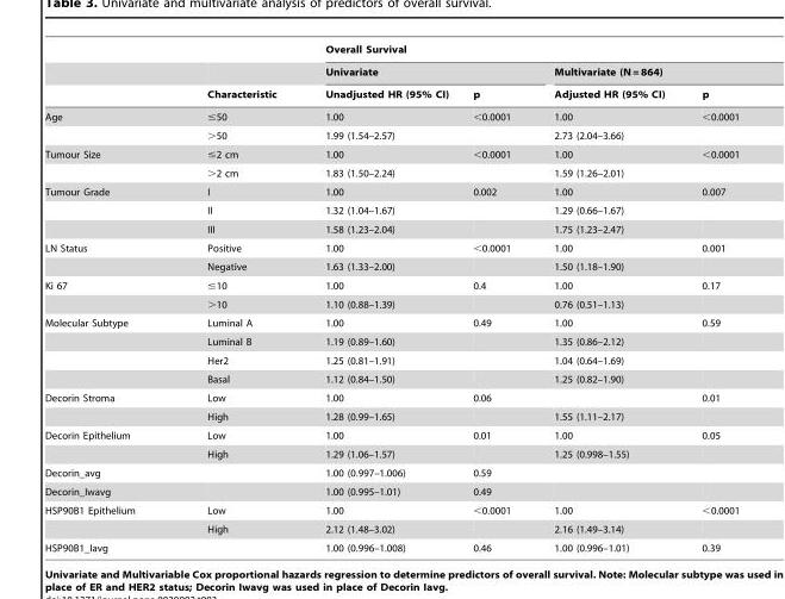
<table><thead><tr><td rowspan="3"></td><td rowspan="3">Characteristic</td><td colspan="4">Overall Survival</td></tr><tr><td colspan="2">Univariate</td><td colspan="2">Multivariate (N = 864)</td></tr><tr><td>Unadjusted HR (95% CI)</td><td>p</td><td>Adjusted HR (95% CI)</td><td>p</td></tr></thead><tbody><tr><td rowspan="2">Age</td><td>≤50</td><td>1.00</td><td>&lt;0.0001</td><td>1.00</td><td>&lt;0.0001</td></tr><tr><td>&gt;50</td><td>1.99 (1.54–2.57)</td><td></td><td>2.73 (2.04–3.66)</td><td></td></tr><tr><td rowspan="2">Tumour Size</td><td>≤2 cm</td><td>1.00</td><td>&lt;0.0001</td><td>1.00</td><td>&lt;0.0001</td></tr><tr><td>&gt;2 cm</td><td>1.83 (1.50–2.24)</td><td></td><td>1.59 (1.26–2.01)</td><td></td></tr><tr><td rowspan="3">Tumour Grade</td><td>I</td><td>1.00</td><td>0.002</td><td>1.00</td><td>0.007</td></tr><tr><td>II</td><td>1.32 (1.04–1.67)</td><td></td><td>1.29 (0.66–1.67)</td><td></td></tr><tr><td>III</td><td>1.58 (1.23–2.04)</td><td></td><td>1.75 (1.23–2.47)</td><td></td></tr><tr><td rowspan="2">LN Status</td><td>Positive</td><td>1.00</td><td>&lt;0.0001</td><td>1.00</td><td>0.001</td></tr><tr><td>Negative</td><td>1.63 (1.33–2.00)</td><td></td><td>1.50 (1.18–1.90)</td><td></td></tr><tr><td rowspan="2">Ki 67</td><td>≤10</td><td>1.00</td><td>0.4</td><td>1.00</td><td>0.17</td></tr><tr><td>&gt;10</td><td>1.10 (0.88–1.39)</td><td></td><td>0.76 (0.51–1.13)</td><td></td></tr><tr><td rowspan="4">Molecular Subtype</td><td>Luminal A</td><td>1.00</td><td>0.49</td><td>1.00</td><td>0.59</td></tr><tr><td>Luminal B</td><td>1.19 (0.89–1.60)</td><td></td><td>1.35 (0.86–2.12)</td><td></td></tr><tr><td>Her2</td><td>1.25 (0.81–1.91)</td><td></td><td>1.04 (0.64–1.69)</td><td></td></tr><tr><td>Basal</td><td>1.12 (0.84–1.50)</td><td></td><td>1.25 (0.82–1.90)</td><td></td></tr><tr><td rowspan="2">Decorin Stroma</td><td>Low</td><td>1.00</td><td>0.06</td><td></td><td>0.01</td></tr><tr><td>High</td><td>1.28 (0.99–1.65)</td><td></td><td>1.55 (1.11–2.17)</td><td></td></tr><tr><td rowspan="2">Decorin Epithelium</td><td>Low</td><td>1.00</td><td>0.01</td><td>1.00</td><td>0.05</td></tr><tr><td>High</td><td>1.29 (1.06–1.57)</td><td></td><td>1.25 (0.998–1.55)</td><td></td></tr><tr><td>Decorin_avg</td><td></td><td>1.00 (0.997–1.006)</td><td>0.59</td><td></td><td></td></tr><tr><td>Decorin_Iwavg</td><td></td><td>1.00 (0.995–1.01)</td><td>0.49</td><td></td><td></td></tr><tr><td rowspan="2">HSP90B1 Epithelium</td><td>Low</td><td>1.00</td><td>&lt;0.0001</td><td>1.00</td><td>&lt;0.0001</td></tr><tr><td>High</td><td>2.12 (1.48–3.02)</td><td></td><td>2.16 (1.49–3.14)</td><td></td></tr><tr><td>HSP90B1_Iavg</td><td></td><td>1.00 (0.996–1.008)</td><td>0.46</td><td>1.00 (0.996–1.01)</td><td>0.39</td></tr></tbody></table>